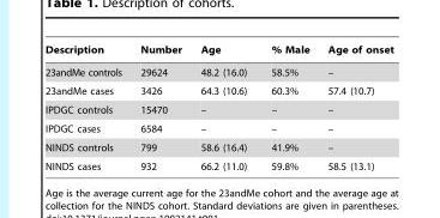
<table><thead><tr><td>Description</td><td>Number</td><td>Age</td><td>% Male</td><td>Age of onset</td></tr></thead><tbody><tr><td>23andMe controls</td><td>29624</td><td>48.2 (16.0)</td><td>58.5%</td><td>–</td></tr><tr><td>23andMe cases</td><td>3426</td><td>64.3 (10.6)</td><td>60.3%</td><td>57.4 (10.7)</td></tr><tr><td>IPDGC controls</td><td>15470</td><td>–</td><td>–</td><td>–</td></tr><tr><td>IPDGC cases</td><td>6584</td><td>–</td><td>–</td><td>–</td></tr><tr><td>NINDS controls</td><td>799</td><td>58.6 (16.4)</td><td>41.9%</td><td>–</td></tr><tr><td>NINDS cases</td><td>932</td><td>66.2 (11.0)</td><td>59.8%</td><td>58.5 (13.1)</td></tr></tbody></table>